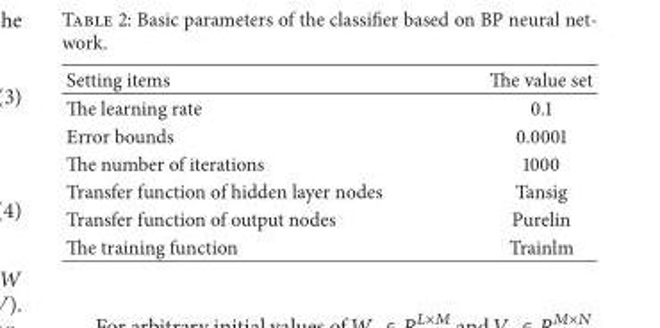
<table><thead><tr><td>Setting items</td><td>The value set</td></tr></thead><tbody><tr><td>The learning rate</td><td>0.1</td></tr><tr><td>Error bounds</td><td>0.0001</td></tr><tr><td>The number of iterations</td><td>1000</td></tr><tr><td>Transfer function of hidden layer nodes</td><td>Tansig</td></tr><tr><td>Transfer function of output nodes</td><td>Purelin</td></tr><tr><td>The training function</td><td>Trainlm</td></tr></tbody></table>